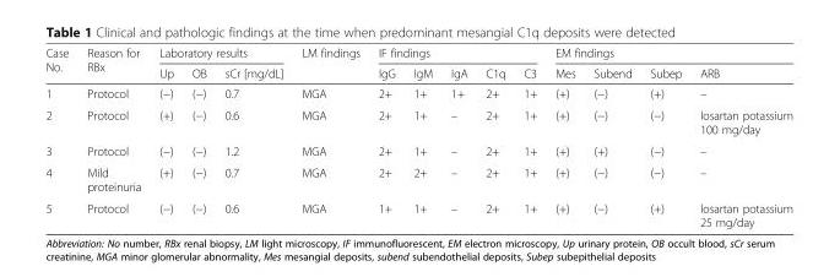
<table><thead><tr><td rowspan="2">Case No.</td><td rowspan="2">Reason for RBx</td><td colspan="3">Laboratory results</td><td rowspan="2">LM findings</td><td colspan="5">IF findings</td><td colspan="4">EM findings</td></tr><tr><td>Up</td><td>OB</td><td>sCr [mg/dL]</td><td>IgG</td><td>IgM</td><td>IgA</td><td>C1q</td><td>C3</td><td>Mes</td><td>Subend</td><td>Subep</td><td>ARB</td></tr></thead><tbody><tr><td>1</td><td>Protocol</td><td>(−)</td><td>(−)</td><td>0.7</td><td>MGA</td><td>2+</td><td>1+</td><td>1+</td><td>2+</td><td>1+</td><td>(+)</td><td>(−)</td><td>(+)</td><td>–</td></tr><tr><td>2</td><td>Protocol</td><td>(+)</td><td>(−)</td><td>0.6</td><td>MGA</td><td>2+</td><td>1+</td><td>–</td><td>2+</td><td>1+</td><td>(+)</td><td>(−)</td><td>(−)</td><td>losartan potassium 100 mg/day</td></tr><tr><td>3</td><td>Protocol</td><td>(−)</td><td>(−)</td><td>1.2</td><td>MGA</td><td>2+</td><td>1+</td><td>–</td><td>2+</td><td>1+</td><td>(+)</td><td>(+)</td><td>(−)</td><td>–</td></tr><tr><td>4</td><td>Mild proteinuria</td><td>(+)</td><td>(−)</td><td>0.7</td><td>MGA</td><td>2+</td><td>2+</td><td>–</td><td>2+</td><td>1+</td><td>(+)</td><td>(−)</td><td>(−)</td><td>–</td></tr><tr><td>5</td><td>Protocol</td><td>(−)</td><td>(−)</td><td>0.6</td><td>MGA</td><td>1+</td><td>1+</td><td>–</td><td>2+</td><td>1+</td><td>(+)</td><td>(−)</td><td>(+)</td><td>losartan potassium 25 mg/day</td></tr></tbody></table>